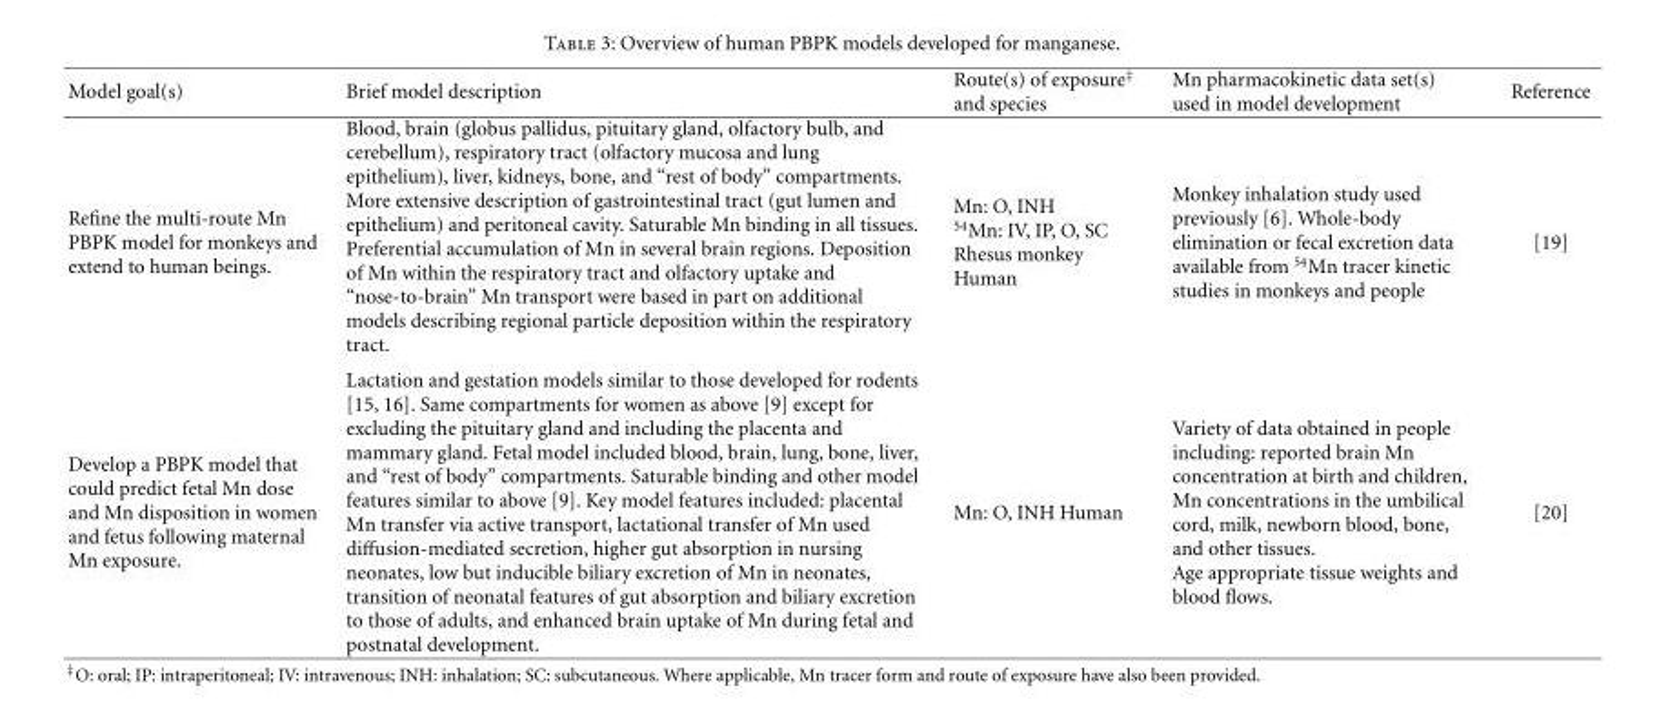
<table><thead><tr><td>Model goal(s)</td><td>Brief model description</td><td>Route(s) of exposure<sup>‡</sup> and species</td><td>Mn pharmacokinetic data set(s) used in model development</td><td>Reference</td></tr></thead><tbody><tr><td>Refine the multi-route Mn PBPK model for monkeys and extend to human beings.</td><td>Blood, brain (globus pallidus, pituitary gland, olfactory bulb, and cerebellum), respiratory tract (olfactory mucosa and lung epithelium), liver, kidneys, bone, and “rest of body” compartments. More extensive description of gastrointestinal tract (gut lumen and epithelium) and peritoneal cavity. Saturable Mn binding in all tissues. Preferential accumulation of Mn in several brain regions. Deposition of Mn within the respiratory tract and olfactory uptake and “nose-to-brain” Mn transport were based in part on additional models describing regional particle deposition within the respiratory tract.</td><td>Mn: O, INH <sup>54</sup>Mn: IV, IP, O, SC Rhesus monkey Human</td><td>Monkey inhalation study used previously [6]. Whole-body elimination or fecal excretion data available from <sup>54</sup>Mn tracer kinetic studies in monkeys and people</td><td>[19]</td></tr><tr><td>Develop a PBPK model that could predict fetal Mn dose and Mn disposition in women and fetus following maternal Mn exposure.</td><td>Lactation and gestation models similar to those developed for rodents [15, 16]. Same compartments for women as above [9] except for excluding the pituitary gland and including the placenta and mammary gland. Fetal model included blood, brain, lung, bone, liver, and “rest of body” compartments. Saturable binding and other model features similar to above [9]. Key model features included: placental Mn transfer via active transport, lactational transfer of Mn used diffusion-mediated secretion, higher gut absorption in nursing neonates, low but inducible biliary excretion of Mn in neonates, transition of neonatal features of gut absorption and biliary excretion to those of adults, and enhanced brain uptake of Mn during fetal and postnatal development.</td><td>Mn: O, INH Human</td><td>Variety of data obtained in people including: reported brain Mn concentration at birth and children, Mn concentrations in the umbilical cord, milk, newborn blood, bone, and other tissues. Age appropriate tissue weights and blood flows.</td><td>[20]</td></tr></tbody></table>